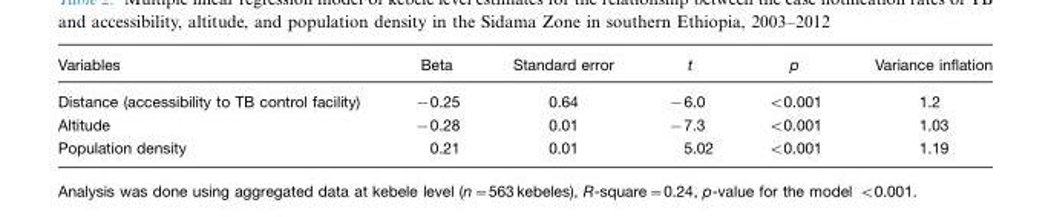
<table><thead><tr><td>Variables</td><td>Beta</td><td>Standard error</td><td>t</td><td>p</td><td>Variance inflation</td></tr></thead><tbody><tr><td>Distance (accessibility to TB control facility)</td><td>−0.25</td><td>0.64</td><td>−6.0</td><td>&lt;0.001</td><td>1.2</td></tr><tr><td>Altitude</td><td>−0.28</td><td>0.01</td><td>−7.3</td><td>&lt;0.001</td><td>1.03</td></tr><tr><td>Population density</td><td>0.21</td><td>0.01</td><td>5.02</td><td>&lt;0.001</td><td>1.19</td></tr></tbody></table>